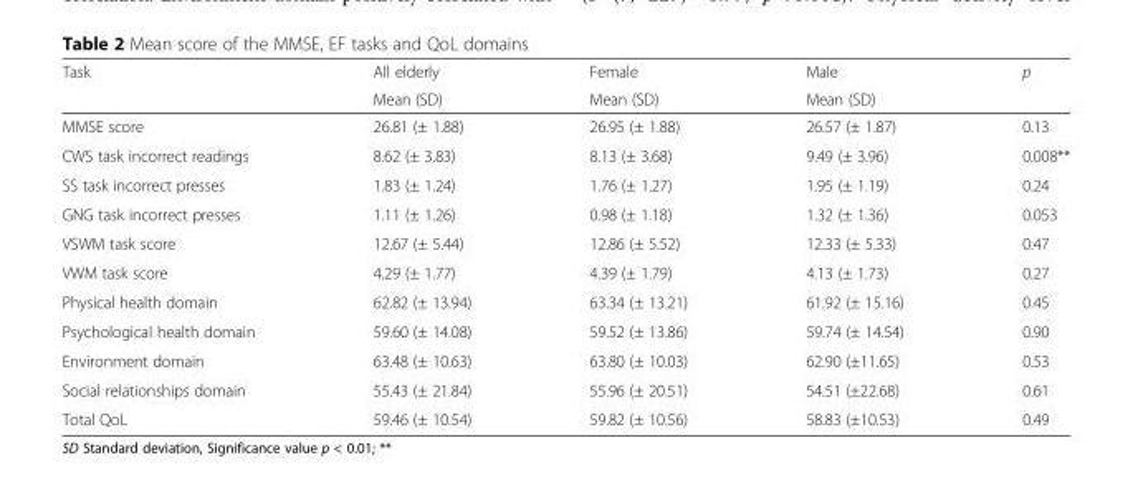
<table><thead><tr><td rowspan="2">Task</td><td rowspan="2">All elderly Mean (SD)</td><td rowspan="2">Female Mean (SD)</td><td rowspan="2">Male Mean (SD)</td><td rowspan="2">p</td></tr><tr></tr></thead><tbody><tr><td>MMSE score</td><td>26.81 (± 1.88)</td><td>26.95 (± 1.88)</td><td>26.57 (± 1.87)</td><td>0.13</td></tr><tr><td>CWS task incorrect readings</td><td>8.62 (± 3.83)</td><td>8.13 (± 3.68)</td><td>9.49 (± 3.96)</td><td>0.008**</td></tr><tr><td>SS task incorrect presses</td><td>1.83 (± 1.24)</td><td>1.76 (± 1.27)</td><td>1.95 (± 1.19)</td><td>0.24</td></tr><tr><td>GNG task incorrect presses</td><td>1.11 (± 1.26)</td><td>0.98 (± 1.18)</td><td>1.32 (± 1.36)</td><td>0.053</td></tr><tr><td>VSWM task score</td><td>12.67 (± 5.44)</td><td>12.86 (± 5.52)</td><td>12.33 (± 5.33)</td><td>0.47</td></tr><tr><td>VWM task score</td><td>4.29 (± 1.77)</td><td>4.39 (± 1.79)</td><td>4.13 (± 1.73)</td><td>0.27</td></tr><tr><td>Physical health domain</td><td>62.82 (± 13.94)</td><td>63.34 (± 13.21)</td><td>61.92 (± 15.16)</td><td>0.45</td></tr><tr><td>Psychological health domain</td><td>59.60 (± 14.08)</td><td>59.52 (± 13.86)</td><td>59.74 (± 14.54)</td><td>0.90</td></tr><tr><td>Environment domain</td><td>63.48 (± 10.63)</td><td>63.80 (± 10.03)</td><td>62.90 (±11.65)</td><td>0.53</td></tr><tr><td>Social relationships domain</td><td>55.43 (± 21.84)</td><td>55.96 (± 20.51)</td><td>54.51 (±22.68)</td><td>0.61</td></tr><tr><td>Total QoL</td><td>59.46 (± 10.54)</td><td>59.82 (± 10.56)</td><td>58.83 (±10.53)</td><td>0.49</td></tr></tbody></table>